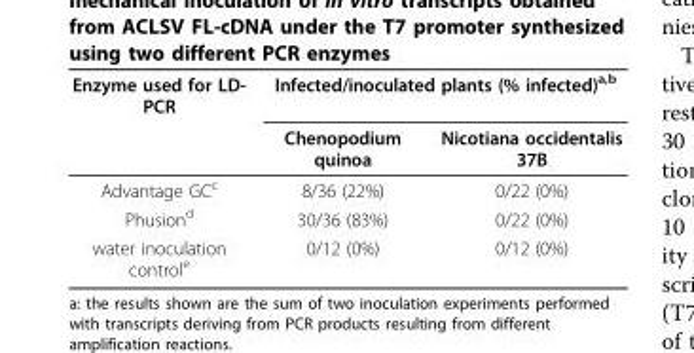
<table><thead><tr><td rowspan="2">Enzyme used for LD- PCR</td><td colspan="2">Infected/inoculated plants (% infected)<sup>a,b</sup></td></tr><tr><td>Chenopodium quinoa</td><td>Nicotiana occidentalis 37B</td></tr></thead><tbody><tr><td>Advantage GC<sup>c</sup></td><td>8/36 (22%)</td><td>0/22 (0%)</td></tr><tr><td>Phusion<sup>d</sup></td><td>30/36 (83%)</td><td>0/22 (0%)</td></tr><tr><td>water inoculation control<sup>e</sup></td><td>0/12 (0%)</td><td>0/12 (0%)</td></tr></tbody></table>